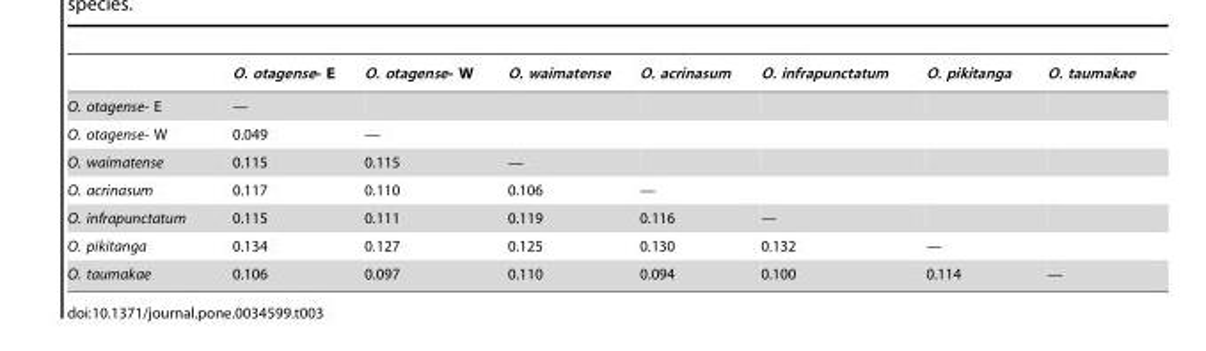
<table><thead><tr><td></td><td>O. otagense- E</td><td>O. otagense- W</td><td>O. waimatense</td><td>O. acrinasum</td><td>O. infrapunctatum</td><td>O. pikitanga</td><td>O. taumakae</td></tr></thead><tbody><tr><td>O. otagense- E</td><td>—</td><td></td><td></td><td></td><td></td><td></td><td></td></tr><tr><td>O. otagense- W</td><td>0.049</td><td>—</td><td></td><td></td><td></td><td></td><td></td></tr><tr><td>O. waimatense</td><td>0.115</td><td>0.115</td><td>—</td><td></td><td></td><td></td><td></td></tr><tr><td>O. acrinasum</td><td>0.117</td><td>0.110</td><td>0.106</td><td>—</td><td></td><td></td><td></td></tr><tr><td>O. infrapunctatum</td><td>0.115</td><td>0.111</td><td>0.119</td><td>0.116</td><td>—</td><td></td><td></td></tr><tr><td>O. pikitanga</td><td>0.134</td><td>0.127</td><td>0.125</td><td>0.130</td><td>0.132</td><td>—</td><td></td></tr><tr><td>O. taumakae</td><td>0.106</td><td>0.097</td><td>0.110</td><td>0.094</td><td>0.100</td><td>0.114</td><td>—</td></tr></tbody></table>